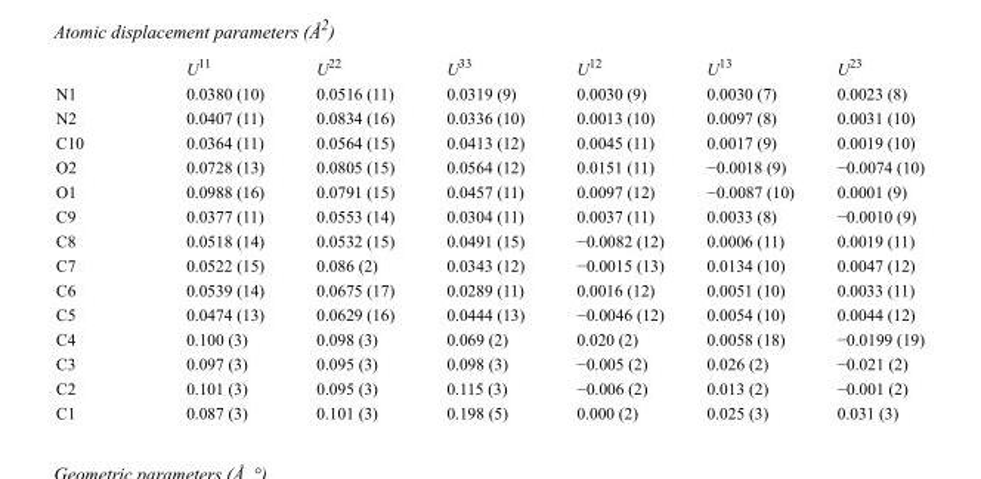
<table><thead><tr><td></td><td>U<sup>11</sup></td><td>U<sup>22</sup></td><td>U<sup>33</sup></td><td>U<sup>12</sup></td><td>U<sup>13</sup></td><td>U<sup>23</sup></td></tr></thead><tbody><tr><td>N1</td><td>0.0380 (10)</td><td>0.0516 (11)</td><td>0.0319 (9)</td><td>0.0030 (9)</td><td>0.0030 (7)</td><td>0.0023 (8)</td></tr><tr><td>N2</td><td>0.0407 (11)</td><td>0.0834 (16)</td><td>0.0336 (10)</td><td>0.0013 (10)</td><td>0.0097 (8)</td><td>0.0031 (10)</td></tr><tr><td>C10</td><td>0.0364 (11)</td><td>0.0564 (15)</td><td>0.0413 (12)</td><td>0.0045 (11)</td><td>0.0017 (9)</td><td>0.0019 (10)</td></tr><tr><td>O2</td><td>0.0728 (13)</td><td>0.0805 (15)</td><td>0.0564 (12)</td><td>0.0151 (11)</td><td>−0.0018 (9)</td><td>−0.0074 (10)</td></tr><tr><td>O1</td><td>0.0988 (16)</td><td>0.0791 (15)</td><td>0.0457 (11)</td><td>0.0097 (12)</td><td>−0.0087 (10)</td><td>0.0001 (9)</td></tr><tr><td>C9</td><td>0.0377 (11)</td><td>0.0553 (14)</td><td>0.0304 (11)</td><td>0.0037 (11)</td><td>0.0033 (8)</td><td>−0.0010 (9)</td></tr><tr><td>C8</td><td>0.0518 (14)</td><td>0.0532 (15)</td><td>0.0491 (15)</td><td>−0.0082 (12)</td><td>0.0006 (11)</td><td>0.0019 (11)</td></tr><tr><td>C7</td><td>0.0522 (15)</td><td>0.086 (2)</td><td>0.0343 (12)</td><td>−0.0015 (13)</td><td>0.0134 (10)</td><td>0.0047 (12)</td></tr><tr><td>C6</td><td>0.0539 (14)</td><td>0.0675 (17)</td><td>0.0289 (11)</td><td>0.0016 (12)</td><td>0.0051 (10)</td><td>0.0033 (11)</td></tr><tr><td>C5</td><td>0.0474 (13)</td><td>0.0629 (16)</td><td>0.0444 (13)</td><td>−0.0046 (12)</td><td>0.0054 (10)</td><td>0.0044 (12)</td></tr><tr><td>C4</td><td>0.100 (3)</td><td>0.098 (3)</td><td>0.069 (2)</td><td>0.020 (2)</td><td>0.0058 (18)</td><td>−0.0199 (19)</td></tr><tr><td>C3</td><td>0.097 (3)</td><td>0.095 (3)</td><td>0.098 (3)</td><td>−0.005 (2)</td><td>0.026 (2)</td><td>−0.021 (2)</td></tr><tr><td>C2</td><td>0.101 (3)</td><td>0.095 (3)</td><td>0.115 (3)</td><td>−0.006 (2)</td><td>0.013 (2)</td><td>−0.001 (2)</td></tr><tr><td>C1</td><td>0.087 (3)</td><td>0.101 (3)</td><td>0.198 (5)</td><td>0.000 (2)</td><td>0.025 (3)</td><td>0.031 (3)</td></tr></tbody></table>